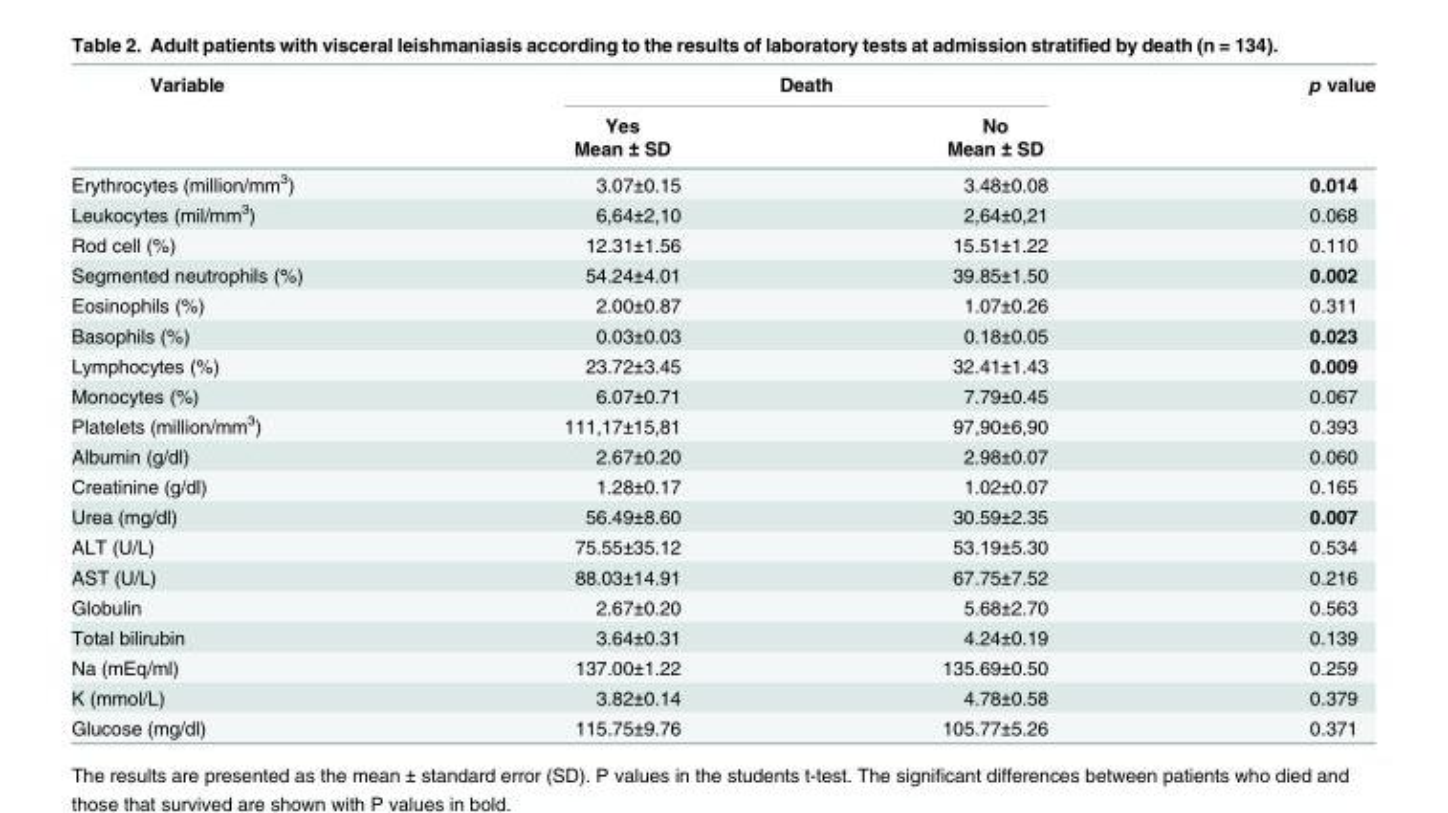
<table><thead><tr><td rowspan="3">Variable</td><td colspan="2">Death</td><td rowspan="3">p value</td></tr><tr><td rowspan="2">Yes Mean ± SD</td><td rowspan="2">No Mean ± SD</td></tr><tr></tr></thead><tbody><tr><td>Erythrocytes (million/mm<sup>3</sup>)</td><td>3.07±0.15</td><td>3.48±0.08</td><td>0.014</td></tr><tr><td>Leukocytes (mil/mm<sup>3</sup>)</td><td>6,64±2,10</td><td>2,64±0,21</td><td>0.068</td></tr><tr><td>Rod cell (%)</td><td>12.31±1.56</td><td>15.51±1.22</td><td>0.110</td></tr><tr><td>Segmented neutrophils (%)</td><td>54.24±4.01</td><td>39.85±1.50</td><td>0.002</td></tr><tr><td>Eosinophils (%)</td><td>2.00±0.87</td><td>1.07±0.26</td><td>0.311</td></tr><tr><td>Basophils (%)</td><td>0.03±0.03</td><td>0.18±0.05</td><td>0.023</td></tr><tr><td>Lymphocytes (%)</td><td>23.72±3.45</td><td>32.41±1.43</td><td>0.009</td></tr><tr><td>Monocytes (%)</td><td>6.07±0.71</td><td>7.79±0.45</td><td>0.067</td></tr><tr><td>Platelets (million/mm<sup>3</sup>)</td><td>111,17±15,81</td><td>97,90±6,90</td><td>0.393</td></tr><tr><td>Albumin (g/dl)</td><td>2.67±0.20</td><td>2.98±0.07</td><td>0.060</td></tr><tr><td>Creatinine (g/dl)</td><td>1.28±0.17</td><td>1.02±0.07</td><td>0.165</td></tr><tr><td>Urea (mg/dl)</td><td>56.49±8.60</td><td>30.59±2.35</td><td>0.007</td></tr><tr><td>ALT (U/L)</td><td>75.55±35.12</td><td>53.19±5.30</td><td>0.534</td></tr><tr><td>AST (U/L)</td><td>88.03±14.91</td><td>67.75±7.52</td><td>0.216</td></tr><tr><td>Globulin</td><td>2.67±0.20</td><td>5.68±2.70</td><td>0.563</td></tr><tr><td>Total bilirubin</td><td>3.64±0.31</td><td>4.24±0.19</td><td>0.139</td></tr><tr><td>Na (mEq/ml)</td><td>137.00±1.22</td><td>135.69±0.50</td><td>0.259</td></tr><tr><td>K (mmol/L)</td><td>3.82±0.14</td><td>4.78±0.58</td><td>0.379</td></tr><tr><td>Glucose (mg/dl)</td><td>115.75±9.76</td><td>105.77±5.26</td><td>0.371</td></tr></tbody></table>